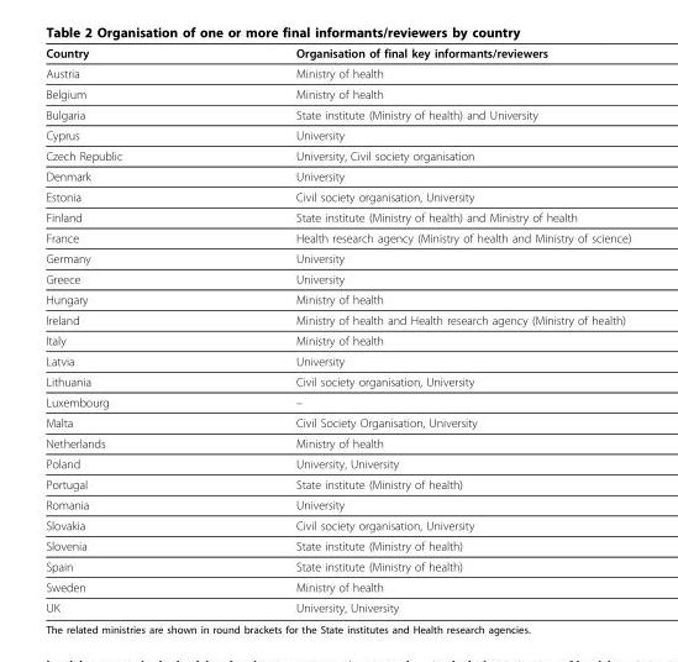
<table><thead><tr><td>Country</td><td>Organisation of final key informants/reviewers</td></tr></thead><tbody><tr><td>Austria</td><td>Ministry of health</td></tr><tr><td>Belgium</td><td>Ministry of health</td></tr><tr><td>Bulgaria</td><td>State institute (Ministry of health) and University</td></tr><tr><td>Cyprus</td><td>University</td></tr><tr><td>Czech Republic</td><td>University, Civil society organisation</td></tr><tr><td>Denmark</td><td>University</td></tr><tr><td>Estonia</td><td>Civil society organisation, University</td></tr><tr><td>Finland</td><td>State institute (Ministry of health) and Ministry of health</td></tr><tr><td>France</td><td>Health research agency (Ministry of health and Ministry of science)</td></tr><tr><td>Germany</td><td>University</td></tr><tr><td>Greece</td><td>University</td></tr><tr><td>Hungary</td><td>Ministry of health</td></tr><tr><td>Ireland</td><td>Ministry of health and Health research agency (Ministry of health)</td></tr><tr><td>Italy</td><td>Ministry of health</td></tr><tr><td>Latvia</td><td>University</td></tr><tr><td>Lithuania</td><td>Civil society organisation, University</td></tr><tr><td>Luxembourg</td><td>–</td></tr><tr><td>Malta</td><td>Civil Society Organisation, University</td></tr><tr><td>Netherlands</td><td>Ministry of health</td></tr><tr><td>Poland</td><td>University, University</td></tr><tr><td>Portugal</td><td>State institute (Ministry of health)</td></tr><tr><td>Romania</td><td>University</td></tr><tr><td>Slovakia</td><td>Civil society organisation, University</td></tr><tr><td>Slovenia</td><td>State institute (Ministry of health)</td></tr><tr><td>Spain</td><td>State institute (Ministry of health)</td></tr><tr><td>Sweden</td><td>Ministry of health</td></tr><tr><td>UK</td><td>University, University</td></tr></tbody></table>